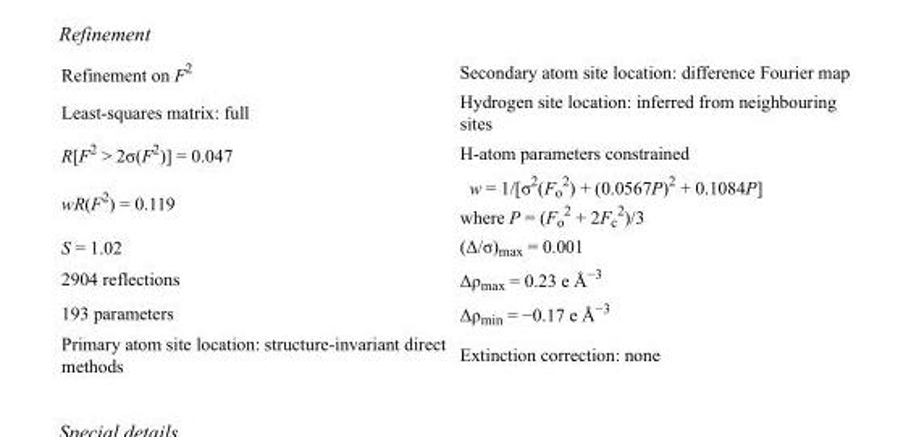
<table><tbody><tr><td>Refinement on F<sup>2</sup></td><td>Secondary atom site location: difference Fourier map</td></tr><tr><td>Least-squares matrix: full</td><td>Hydrogen site location: inferred from neighbouring sites</td></tr><tr><td>R[F<sup>2</sup> &gt; 2σ(F<sup>2</sup>)] = 0.047</td><td>H-atom parameters constrained</td></tr><tr><td>wR(F<sup>2</sup>) = 0.119</td><td>w = 1/[σ<sup>2</sup>(F<sub>o</sub> <sup>2</sup>) + (0.0567P)<sup>2</sup> + 0.1084P] where P = (F<sub>o</sub> <sup>2</sup> + 2F<sub>c</sub> <sup>2</sup>)/3</td></tr><tr><td>S = 1.02</td><td>(Δ/σ)<sub>max</sub> = 0.001</td></tr><tr><td>2904 reflections</td><td>Δρ<sub>max</sub> = 0.23 e Å<sup>−3</sup></td></tr><tr><td>193 parameters</td><td>Δρ<sub>min</sub> = −0.17 e Å<sup>−3</sup></td></tr><tr><td>Primary atom site location: structure-invariant direct methods</td><td>Extinction correction: none</td></tr></tbody></table>